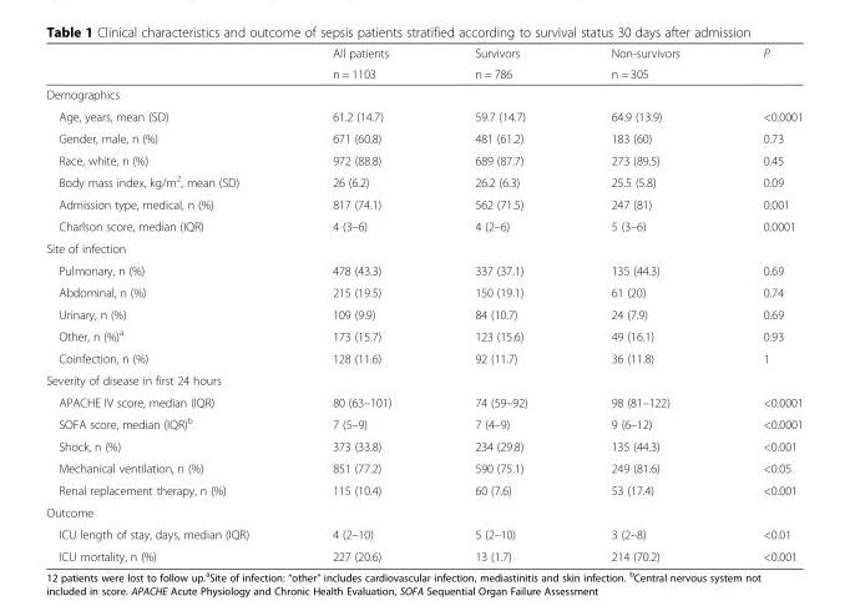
<table><thead><tr><td rowspan="2"></td><td rowspan="2">All patients n = 1103</td><td rowspan="2">Survivors n = 786</td><td rowspan="2">Non-survivors n = 305</td><td rowspan="2">P</td></tr><tr></tr></thead><tbody><tr><td colspan="5">Demographics</td></tr><tr><td>Age, years, mean (SD)</td><td>61.2 (14.7)</td><td>59.7 (14.7)</td><td>64.9 (13.9)</td><td>&lt;0.0001</td></tr><tr><td>Gender, male, n (%)</td><td>671 (60.8)</td><td>481 (61.2)</td><td>183 (60)</td><td>0.73</td></tr><tr><td>Race, white, n (%)</td><td>972 (88.8)</td><td>689 (87.7)</td><td>273 (89.5)</td><td>0.45</td></tr><tr><td>Body mass index, kg/m<sup>2</sup>, mean (SD)</td><td>26 (6.2)</td><td>26.2 (6.3)</td><td>25.5 (5.8)</td><td>0.09</td></tr><tr><td>Admission type, medical, n (%)</td><td>817 (74.1)</td><td>562 (71.5)</td><td>247 (81)</td><td>0.001</td></tr><tr><td>Charlson score, median (IQR)</td><td>4 (3–6)</td><td>4 (2–6)</td><td>5 (3–6)</td><td>0.0001</td></tr><tr><td colspan="5">Site of infection</td></tr><tr><td>Pulmonary, n (%)</td><td>478 (43.3)</td><td>337 (37.1)</td><td>135 (44.3)</td><td>0.69</td></tr><tr><td>Abdominal, n (%)</td><td>215 (19.5)</td><td>150 (19.1)</td><td>61 (20)</td><td>0.74</td></tr><tr><td>Urinary, n (%)</td><td>109 (9.9)</td><td>84 (10.7)</td><td>24 (7.9)</td><td>0.69</td></tr><tr><td>Other, n (%)<sup>a</sup></td><td>173 (15.7)</td><td>123 (15.6)</td><td>49 (16.1)</td><td>0.93</td></tr><tr><td>Coinfection, n (%)</td><td>128 (11.6)</td><td>92 (11.7)</td><td>36 (11.8)</td><td>1</td></tr><tr><td colspan="5">Severity of disease in first 24 hours</td></tr><tr><td>APACHE IV score, median (IQR)</td><td>80 (63–101)</td><td>74 (59–92)</td><td>98 (81–122)</td><td>&lt;0.0001</td></tr><tr><td>SOFA score, median (IQR)<sup>b</sup></td><td>7 (5–9)</td><td>7 (4–9)</td><td>9 (6–12)</td><td>&lt;0.0001</td></tr><tr><td>Shock, n (%)</td><td>373 (33.8)</td><td>234 (29.8)</td><td>135 (44.3)</td><td>&lt;0.001</td></tr><tr><td>Mechanical ventilation, n (%)</td><td>851 (77.2)</td><td>590 (75.1)</td><td>249 (81.6)</td><td>&lt;0.05</td></tr><tr><td>Renal replacement therapy, n (%)</td><td>115 (10.4)</td><td>60 (7.6)</td><td>53 (17.4)</td><td>&lt;0.001</td></tr><tr><td colspan="5">Outcome</td></tr><tr><td>ICU length of stay, days, median (IQR)</td><td>4 (2–10)</td><td>5 (2–10)</td><td>3 (2–8)</td><td>&lt;0.01</td></tr><tr><td>ICU mortality, n (%)</td><td>227 (20.6)</td><td>13 (1.7)</td><td>214 (70.2)</td><td>&lt;0.001</td></tr></tbody></table>